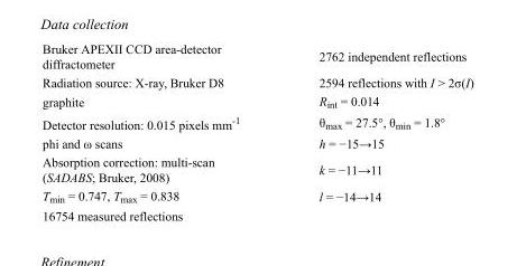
<table><tbody><tr><td>Bruker APEXII CCD area-detector diffractometer</td><td>2762 independent reflections</td></tr><tr><td>Radiation source: X-ray, Bruker D8</td><td>2594 reflections with I &gt; 2σ(I)</td></tr><tr><td>graphite</td><td>R<sub>int</sub> = 0.014</td></tr><tr><td>Detector resolution: 0.015 pixels mm<sup>-1</sup></td><td>θ<sub>max</sub> = 27.5°, θ<sub>min</sub> = 1.8°</td></tr><tr><td>phi and ω scans</td><td>h = −15→15</td></tr><tr><td>Absorption correction: multi-scan (SADABS; Bruker, 2008)</td><td>k = −11→11</td></tr><tr><td>T<sub>min</sub> = 0.747, T<sub>max</sub> = 0.838</td><td>l = −14→14</td></tr><tr><td>16754 measured reflections</td><td></td></tr></tbody></table>